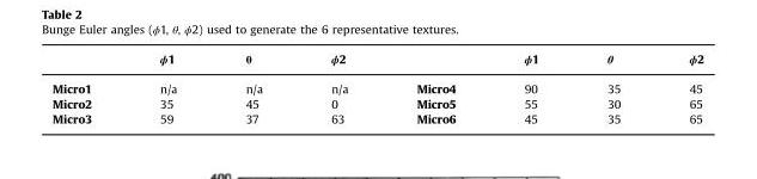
<table><thead><tr><td></td><td>ϕ1</td><td>θ</td><td>ϕ2</td><td></td><td>ϕ1</td><td>θ</td><td>ϕ2</td></tr></thead><tbody><tr><td>Micro1</td><td>n/a</td><td>n/a</td><td>n/a</td><td>Micro4</td><td>90</td><td>35</td><td>45</td></tr><tr><td>Micro2</td><td>35</td><td>45</td><td>0</td><td>Micro5</td><td>55</td><td>30</td><td>65</td></tr><tr><td>Micro3</td><td>59</td><td>37</td><td>63</td><td>Micro6</td><td>45</td><td>35</td><td>65</td></tr></tbody></table>